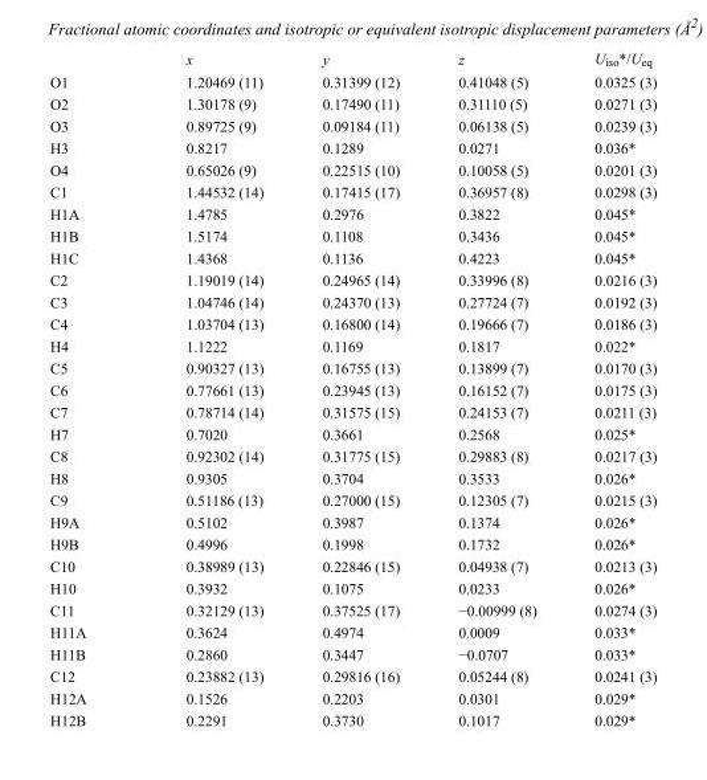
<table><thead><tr><td></td><td>x</td><td>y</td><td>z</td><td>U<sub>iso</sub>*/U<sub>eq</sub></td></tr></thead><tbody><tr><td>O1</td><td>1.20469 (11)</td><td>0.31399 (12)</td><td>0.41048 (5)</td><td>0.0325 (3)</td></tr><tr><td>O2</td><td>1.30178 (9)</td><td>0.17490 (11)</td><td>0.31110 (5)</td><td>0.0271 (3)</td></tr><tr><td>O3</td><td>0.89725 (9)</td><td>0.09184 (11)</td><td>0.06138 (5)</td><td>0.0239 (3)</td></tr><tr><td>H3</td><td>0.8217</td><td>0.1289</td><td>0.0271</td><td>0.036*</td></tr><tr><td>O4</td><td>0.65026 (9)</td><td>0.22515 (10)</td><td>0.10058 (5)</td><td>0.0201 (3)</td></tr><tr><td>C1</td><td>1.44532 (14)</td><td>0.17415 (17)</td><td>0.36957 (8)</td><td>0.0298 (3)</td></tr><tr><td>H1A</td><td>1.4785</td><td>0.2976</td><td>0.3822</td><td>0.045*</td></tr><tr><td>H1B</td><td>1.5174</td><td>0.1108</td><td>0.3436</td><td>0.045*</td></tr><tr><td>H1C</td><td>1.4368</td><td>0.1136</td><td>0.4223</td><td>0.045*</td></tr><tr><td>C2</td><td>1.19019 (14)</td><td>0.24965 (14)</td><td>0.33996 (8)</td><td>0.0216 (3)</td></tr><tr><td>C3</td><td>1.04746 (14)</td><td>0.24370 (13)</td><td>0.27724 (7)</td><td>0.0192 (3)</td></tr><tr><td>C4</td><td>1.03704 (13)</td><td>0.16800 (14)</td><td>0.19666 (7)</td><td>0.0186 (3)</td></tr><tr><td>H4</td><td>1.1222</td><td>0.1169</td><td>0.1817</td><td>0.022*</td></tr><tr><td>C5</td><td>0.90327 (13)</td><td>0.16755 (13)</td><td>0.13899 (7)</td><td>0.0170 (3)</td></tr><tr><td>C6</td><td>0.77661 (13)</td><td>0.23945 (13)</td><td>0.16152 (7)</td><td>0.0175 (3)</td></tr><tr><td>C7</td><td>0.78714 (14)</td><td>0.31575 (15)</td><td>0.24153 (7)</td><td>0.0211 (3)</td></tr><tr><td>H7</td><td>0.7020</td><td>0.3661</td><td>0.2568</td><td>0.025*</td></tr><tr><td>C8</td><td>0.92302 (14)</td><td>0.31775 (15)</td><td>0.29883 (8)</td><td>0.0217 (3)</td></tr><tr><td>H8</td><td>0.9305</td><td>0.3704</td><td>0.3533</td><td>0.026*</td></tr><tr><td>C9</td><td>0.51186 (13)</td><td>0.27000 (15)</td><td>0.12305 (7)</td><td>0.0215 (3)</td></tr><tr><td>H9A</td><td>0.5102</td><td>0.3987</td><td>0.1374</td><td>0.026*</td></tr><tr><td>H9B</td><td>0.4996</td><td>0.1998</td><td>0.1732</td><td>0.026*</td></tr><tr><td>C10</td><td>0.38989 (13)</td><td>0.22846 (15)</td><td>0.04938 (7)</td><td>0.0213 (3)</td></tr><tr><td>H10</td><td>0.3932</td><td>0.1075</td><td>0.0233</td><td>0.026*</td></tr><tr><td>C11</td><td>0.32129 (13)</td><td>0.37525 (17)</td><td>−0.00999 (8)</td><td>0.0274 (3)</td></tr><tr><td>H11A</td><td>0.3624</td><td>0.4974</td><td>0.0009</td><td>0.033*</td></tr><tr><td>H11B</td><td>0.2860</td><td>0.3447</td><td>−0.0707</td><td>0.033*</td></tr><tr><td>C12</td><td>0.23882 (13)</td><td>0.29816 (16)</td><td>0.05244 (8)</td><td>0.0241 (3)</td></tr><tr><td>H12A</td><td>0.1526</td><td>0.2203</td><td>0.0301</td><td>0.029*</td></tr><tr><td>H12B</td><td>0.2291</td><td>0.3730</td><td>0.1017</td><td>0.029*</td></tr></tbody></table>